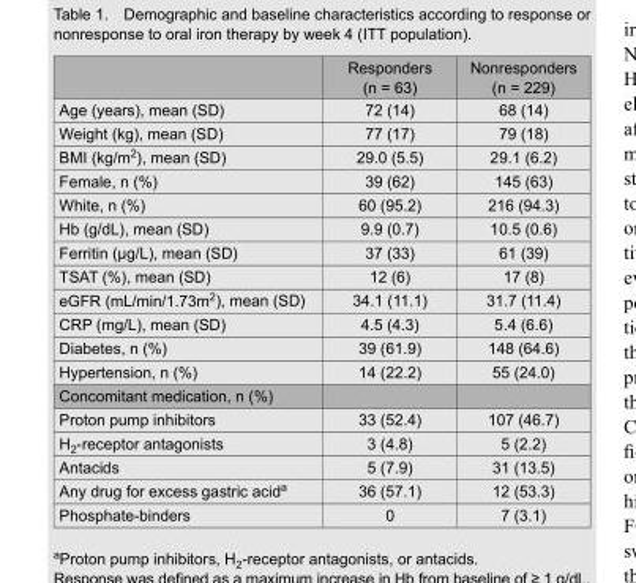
<table><thead><tr><td></td><td>Responders (n = 63)</td><td>Nonresponders (n = 229)</td></tr></thead><tbody><tr><td>Age (years), mean (SD)</td><td>72 (14)</td><td>68 (14)</td></tr><tr><td>Weight (kg), mean (SD)</td><td>77 (17)</td><td>79 (18)</td></tr><tr><td>BMI (kg/m<sup>2</sup>), mean (SD)</td><td>29.0 (5.5)</td><td>29.1 (6.2)</td></tr><tr><td>Female, n (%)</td><td>39 (62)</td><td>145 (63)</td></tr><tr><td>White, n (%)</td><td>60 (95.2)</td><td>216 (94.3)</td></tr><tr><td>Hb (g/dL), mean (SD)</td><td>9.9 (0.7)</td><td>10.5 (0.6)</td></tr><tr><td>Ferritin (μg/L), mean (SD)</td><td>37 (33)</td><td>61 (39)</td></tr><tr><td>TSAT (%), mean (SD)</td><td>12 (6)</td><td>17 (8)</td></tr><tr><td>eGFR (mL/min/1.73m<sup>2</sup>), mean (SD)</td><td>34.1 (11.1)</td><td>31.7 (11.4)</td></tr><tr><td>CRP (mg/L), mean (SD)</td><td>4.5 (4.3)</td><td>5.4 (6.6)</td></tr><tr><td>Diabetes, n (%)</td><td>39 (61.9)</td><td>148 (64.6)</td></tr><tr><td>Hypertension, n (%)</td><td>14 (22.2)</td><td>55 (24.0)</td></tr><tr><td colspan="3">Concomitant medication, n (%)</td></tr><tr><td>Proton pump inhibitors</td><td>33 (52.4)</td><td>107 (46.7)</td></tr><tr><td>H<sub>2</sub>-receptor antagonists</td><td>3 (4.8)</td><td>5 (2.2)</td></tr><tr><td>Antacids</td><td>5 (7.9)</td><td>31 (13.5)</td></tr><tr><td>Any drug for excess gastric acid<sup>a</sup></td><td>36 (57.1)</td><td>12 (53.3)</td></tr><tr><td>Phosphate-binders</td><td>0</td><td>7 (3.1)</td></tr></tbody></table>